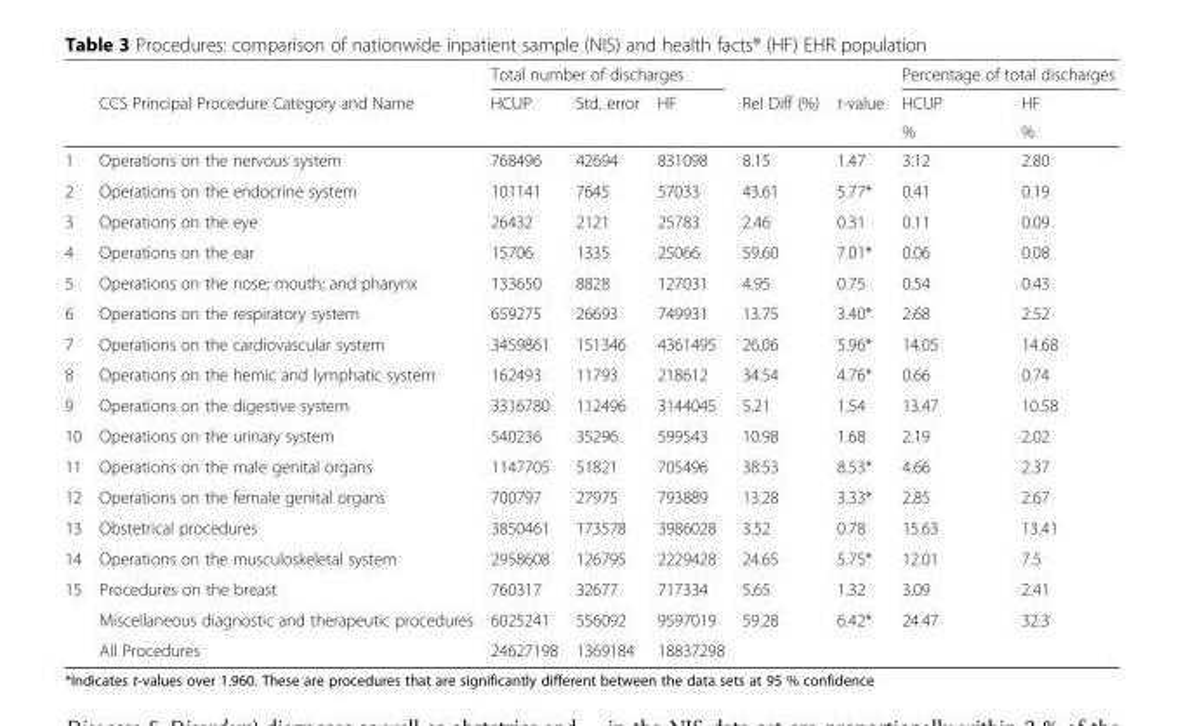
<table><thead><tr><td rowspan="3"></td><td rowspan="3">CCS Principal Procedure Category and Name</td><td colspan="3">Total number of discharges</td><td rowspan="3">Rel Diff (%)</td><td rowspan="3">t-value</td><td colspan="2">Percentage of total discharges</td></tr><tr><td rowspan="2">HCUP</td><td rowspan="2">Std. error</td><td rowspan="2">HF</td><td rowspan="2">HCUP %</td><td rowspan="2">HF %</td></tr><tr></tr></thead><tbody><tr><td>1</td><td>Operations on the nervous system</td><td>768496</td><td>42694</td><td>831098</td><td>8.15</td><td>1.47</td><td>3.12</td><td>2.80</td></tr><tr><td>2</td><td>Operations on the endocrine system</td><td>101141</td><td>7645</td><td>57033</td><td>43.61</td><td>5.77*</td><td>0.41</td><td>0.19</td></tr><tr><td>3</td><td>Operations on the eye</td><td>26432</td><td>2121</td><td>25783</td><td>2.46</td><td>0.31</td><td>0.11</td><td>0.09</td></tr><tr><td>4</td><td>Operations on the ear</td><td>15706</td><td>1335</td><td>25066</td><td>59.60</td><td>7.01*</td><td>0.06</td><td>0.08</td></tr><tr><td>5</td><td>Operations on the nose; mouth; and pharynx</td><td>133650</td><td>8828</td><td>127031</td><td>4.95</td><td>0.75</td><td>0.54</td><td>0.43</td></tr><tr><td>6</td><td>Operations on the respiratory system</td><td>659275</td><td>26693</td><td>749931</td><td>13.75</td><td>3.40*</td><td>2.68</td><td>2.52</td></tr><tr><td>7</td><td>Operations on the cardiovascular system</td><td>3459861</td><td>151346</td><td>4361495</td><td>26.06</td><td>5.96*</td><td>14.05</td><td>14.68</td></tr><tr><td>8</td><td>Operations on the hemic and lymphatic system</td><td>162493</td><td>11793</td><td>218612</td><td>34.54</td><td>4.76*</td><td>0.66</td><td>0.74</td></tr><tr><td>9</td><td>Operations on the digestive system</td><td>3316780</td><td>112496</td><td>3144045</td><td>5.21</td><td>1.54</td><td>13.47</td><td>10.58</td></tr><tr><td>10</td><td>Operations on the urinary system</td><td>540236</td><td>35296</td><td>599543</td><td>10.98</td><td>1.68</td><td>2.19</td><td>2.02</td></tr><tr><td>11</td><td>Operations on the male genital organs</td><td>1147705</td><td>51821</td><td>705496</td><td>38.53</td><td>8.53*</td><td>4.66</td><td>2.37</td></tr><tr><td>12</td><td>Operations on the female genital organs</td><td>700797</td><td>27975</td><td>793889</td><td>13.28</td><td>3.33*</td><td>2.85</td><td>2.67</td></tr><tr><td>13</td><td>Obstetrical procedures</td><td>3850461</td><td>173578</td><td>3986028</td><td>3.52</td><td>0.78</td><td>15.63</td><td>13.41</td></tr><tr><td>14</td><td>Operations on the musculoskeletal system</td><td>2958608</td><td>126795</td><td>2229428</td><td>24.65</td><td>5.75*</td><td>12.01</td><td>7.5</td></tr><tr><td rowspan="3">15</td><td>Procedures on the breast</td><td>760317</td><td>32677</td><td>717334</td><td>5.65</td><td>1.32</td><td>3.09</td><td>2.41</td></tr><tr><td>Miscellaneous diagnostic and therapeutic procedures</td><td>6025241</td><td>556092</td><td>9597019</td><td>59.28</td><td>6.42*</td><td>24.47</td><td>32.3</td></tr><tr><td>All Procedures</td><td>24627198</td><td>1369184</td><td>18837298</td><td></td><td></td><td></td><td></td></tr></tbody></table>